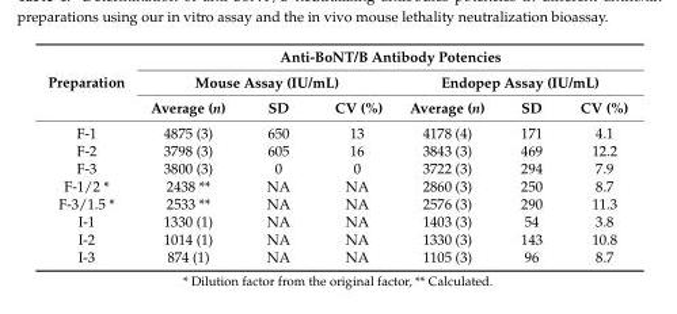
<table><tbody><tr><td rowspan="3">Preparation</td><td colspan="6">Anti-BoNT/B Antibody Potencies</td></tr><tr><td colspan="3">Mouse Assay (IU/mL)</td><td colspan="3">Endopep Assay (IU/mL)</td></tr><tr><td>Average (n)</td><td>SD</td><td>CV (%)</td><td>Average (n)</td><td>SD</td><td>CV (%)</td></tr><tr><td>F-1</td><td>4875 (3)</td><td>650</td><td>13</td><td>4178 (4)</td><td>171</td><td>4.1</td></tr><tr><td>F-2</td><td>3798 (3)</td><td>605</td><td>16</td><td>3843 (3)</td><td>469</td><td>12.2</td></tr><tr><td>F-3</td><td>3800 (3)</td><td>0</td><td>0</td><td>3722 (3)</td><td>294</td><td>7.9</td></tr><tr><td>F-1/2 *</td><td>2438 **</td><td>NA</td><td>NA</td><td>2860 (3)</td><td>250</td><td>8.7</td></tr><tr><td>F-3/1.5 *</td><td>2533 **</td><td>NA</td><td>NA</td><td>2576 (3)</td><td>290</td><td>11.3</td></tr><tr><td>I-1</td><td>1330 (1)</td><td>NA</td><td>NA</td><td>1403 (3)</td><td>54</td><td>3.8</td></tr><tr><td>I-2</td><td>1014 (1)</td><td>NA</td><td>NA</td><td>1330 (3)</td><td>143</td><td>10.8</td></tr><tr><td>I-3</td><td>874 (1)</td><td>NA</td><td>NA</td><td>1105 (3)</td><td>96</td><td>8.7</td></tr></tbody></table>